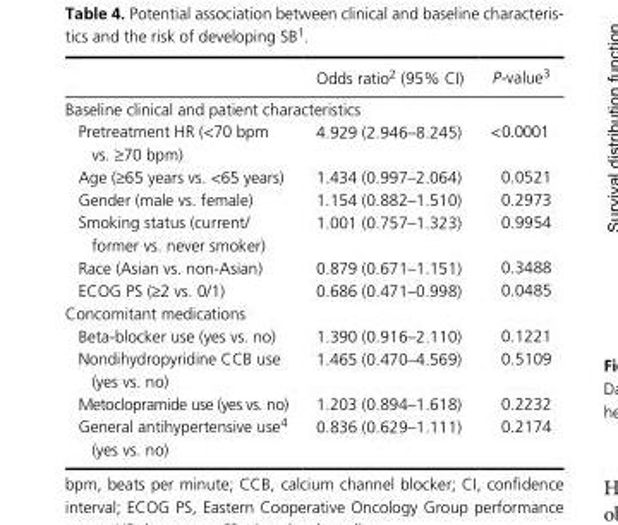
<table><thead><tr><td></td><td>Odds ratio2 (95% CI)</td><td>P- value3</td></tr></thead><tbody><tr><td colspan="3">Baseline clinical and patient characteristics</td></tr><tr><td>Pretreatment HR (&lt;70 bpm vs. ≥70 bpm)</td><td>4.929 (2.946–8.245)</td><td>&lt; 0.0001</td></tr><tr><td>Age (≥65 years vs. &lt;65 years)</td><td>1.434 (0.997–2.064)</td><td>0.0521</td></tr><tr><td>Gender (male vs. female)</td><td>1.154 (0.882–1.510)</td><td>0.2973</td></tr><tr><td>Smoking status (current/ former vs. never smoker)</td><td>1.001 (0.757–1.323)</td><td>0.9954</td></tr><tr><td>Race (Asian vs. non- Asian)</td><td>0.879 (0.671–1.151)</td><td>0.3488</td></tr><tr><td>ECOG PS (≥2 vs. 0/1)</td><td>0.686 (0.471–0.998)</td><td>0.0485</td></tr><tr><td colspan="3">Concomitant medications</td></tr><tr><td>Beta- blocker use (yes vs. no)</td><td>1.390 (0.916–2.110)</td><td>0.1221</td></tr><tr><td>Nondihydropyridine CCB use (yes vs. no)</td><td>1.465 (0.470–4.569)</td><td>0.5109</td></tr><tr><td>Metoclopramide use (yes vs. no)</td><td>1.203 (0.894–1.618)</td><td>0.2232</td></tr><tr><td>General antihypertensive use4 (yes vs. no)</td><td>0.836 (0.629–1.111)</td><td>0.2174</td></tr></tbody></table>